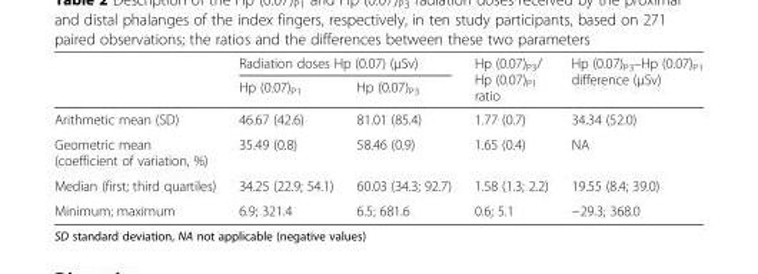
<table><thead><tr><td rowspan="2"></td><td colspan="2">Radiation doses Hp (0.07) (μSv)</td><td rowspan="2">Hp (0.07)<sub>P3</sub>/ Hp (0.07)<sub>P1</sub> ratio</td><td rowspan="2">Hp (0.07)<sub>P3</sub>–Hp (0.07)<sub>P1</sub> difference (μSv)</td></tr><tr><td>Hp (0.07)<sub>P1</sub></td><td>Hp (0.07)<sub>P3</sub></td></tr></thead><tbody><tr><td>Arithmetic mean (SD)</td><td>46.67 (42.6)</td><td>81.01 (85.4)</td><td>1.77 (0.7)</td><td>34.34 (52.0)</td></tr><tr><td>Geometric mean (coefficient of variation, %)</td><td>35.49 (0.8)</td><td>58.46 (0.9)</td><td>1.65 (0.4)</td><td>NA</td></tr><tr><td>Median (first; third quartiles)</td><td>34.25 (22.9; 54.1)</td><td>60.03 (34.3; 92.7)</td><td>1.58 (1.3; 2.2)</td><td>19.55 (8.4; 39.0)</td></tr><tr><td>Minimum; maximum</td><td>6.9; 321.4</td><td>6.5; 681.6</td><td>0.6; 5.1</td><td>−29.3; 368.0</td></tr></tbody></table>